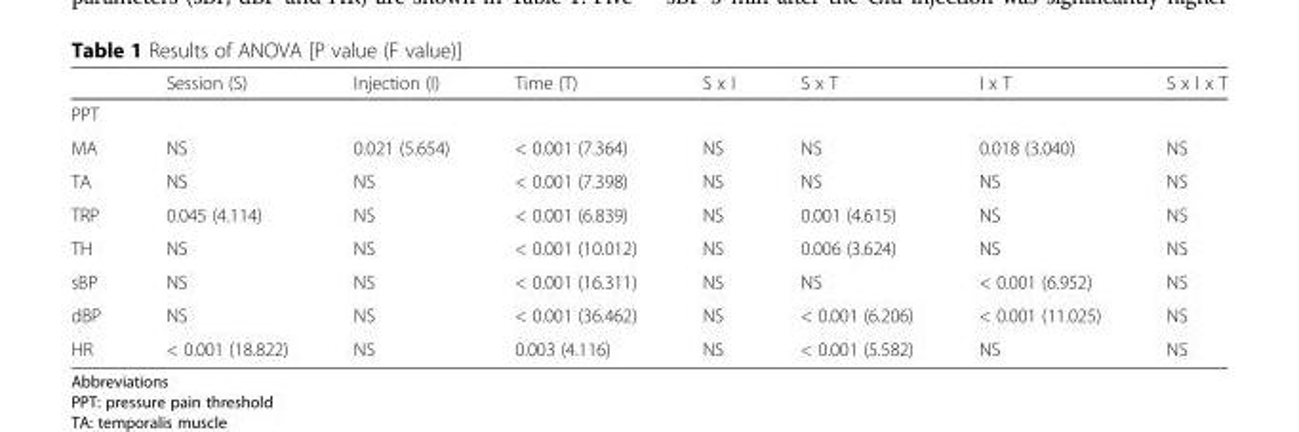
<table><thead><tr><td></td><td>Session (S)</td><td>Injection (I)</td><td>Time (T)</td><td>S x I</td><td>S x T</td><td>I x T</td><td>S x I x T</td></tr></thead><tbody><tr><td colspan="8">PPT</td></tr><tr><td>MA</td><td>NS</td><td>0.021 (5.654)</td><td>&lt; 0.001 (7.364)</td><td>NS</td><td>NS</td><td>0.018 (3.040)</td><td>NS</td></tr><tr><td>TA</td><td>NS</td><td>NS</td><td>&lt; 0.001 (7.398)</td><td>NS</td><td>NS</td><td>NS</td><td>NS</td></tr><tr><td>TRP</td><td>0.045 (4.114)</td><td>NS</td><td>&lt; 0.001 (6.839)</td><td>NS</td><td>0.001 (4.615)</td><td>NS</td><td>NS</td></tr><tr><td>TH</td><td>NS</td><td>NS</td><td>&lt; 0.001 (10.012)</td><td>NS</td><td>0.006 (3.624)</td><td>NS</td><td>NS</td></tr><tr><td>sBP</td><td>NS</td><td>NS</td><td>&lt; 0.001 (16.311)</td><td>NS</td><td>NS</td><td>&lt; 0.001 (6.952)</td><td>NS</td></tr><tr><td>dBP</td><td>NS</td><td>NS</td><td>&lt; 0.001 (36.462)</td><td>NS</td><td>&lt; 0.001 (6.206)</td><td>&lt; 0.001 (11.025)</td><td>NS</td></tr><tr><td>HR</td><td>&lt; 0.001 (18.822)</td><td>NS</td><td>0.003 (4.116)</td><td>NS</td><td>&lt; 0.001 (5.582)</td><td>NS</td><td>NS</td></tr></tbody></table>